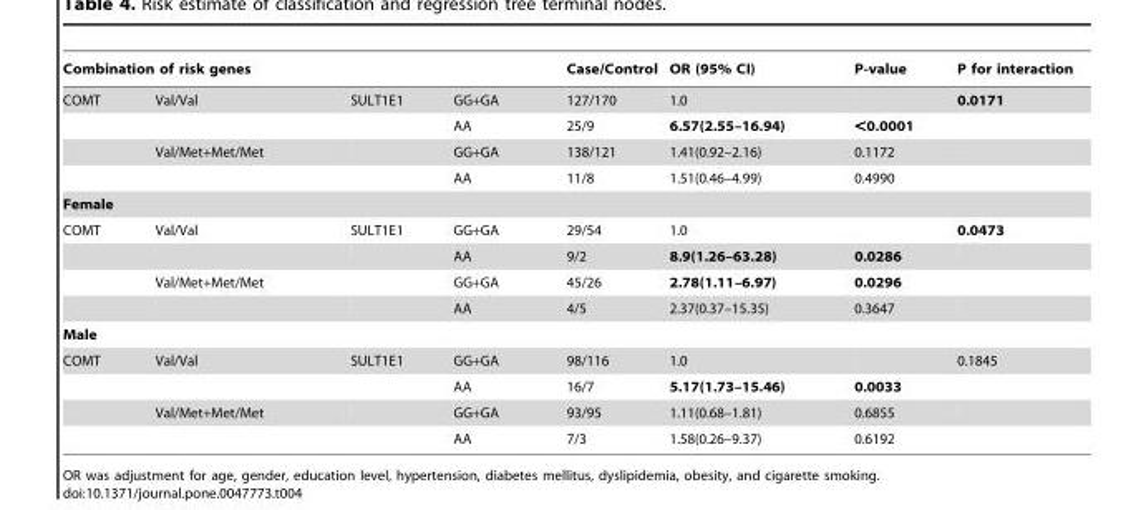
<table><thead><tr><td colspan="4">Combination of risk genes</td><td rowspan="2">Case/Control 127/170</td><td rowspan="2">OR (95% CI) 1.0</td><td rowspan="2">P-value</td><td rowspan="2">P for interaction 0.0171</td></tr><tr><td>COMT</td><td>Val/Val</td><td>SULT1E1</td><td>GG+GA</td></tr></thead><tbody><tr><td></td><td></td><td></td><td>AA</td><td>25/9</td><td>6.57(2.55–16.94)</td><td>&lt;0.0001</td><td></td></tr><tr><td></td><td>Val/Met+Met/Met</td><td></td><td>GG+GA</td><td>138/121</td><td>1.41(0.92–2.16)</td><td>0.1172</td><td></td></tr><tr><td></td><td></td><td></td><td>AA</td><td>11/8</td><td>1.51(0.46–4.99)</td><td>0.4990</td><td></td></tr><tr><td colspan="8">Female</td></tr><tr><td rowspan="4">COMT</td><td>Val/Val</td><td>SULT1E1</td><td>GG+GA</td><td>29/54</td><td>1.0</td><td></td><td>0.0473</td></tr><tr><td></td><td></td><td>AA</td><td>9/2</td><td>8.9(1.26–63.28)</td><td>0.0286</td><td></td></tr><tr><td>Val/Met+Met/Met</td><td></td><td>GG+GA</td><td>45/26</td><td>2.78(1.11–6.97)</td><td>0.0296</td><td></td></tr><tr><td></td><td></td><td>AA</td><td>4/5</td><td>2.37(0.37–15.35)</td><td>0.3647</td><td></td></tr><tr><td colspan="8">Male</td></tr><tr><td rowspan="4">COMT</td><td>Val/Val</td><td>SULT1E1</td><td>GG+GA</td><td>98/116</td><td>1.0</td><td></td><td>0.1845</td></tr><tr><td></td><td></td><td>AA</td><td>16/7</td><td>5.17(1.73–15.46)</td><td>0.0033</td><td></td></tr><tr><td>Val/Met+Met/Met</td><td></td><td>GG+GA</td><td>93/95</td><td>1.11(0.68–1.81)</td><td>0.6855</td><td></td></tr><tr><td></td><td></td><td>AA</td><td>7/3</td><td>1.58(0.26–9.37)</td><td>0.6192</td><td></td></tr></tbody></table>